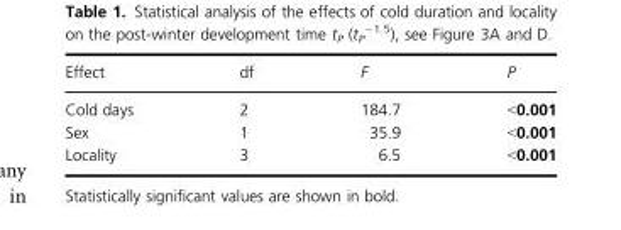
<table><thead><tr><td>Effect</td><td>df</td><td>F</td><td>P</td></tr></thead><tbody><tr><td>Cold days</td><td>2</td><td>184.7</td><td>&lt;0.001</td></tr><tr><td>Sex</td><td>1</td><td>35.9</td><td>&lt;0.001</td></tr><tr><td>Locality</td><td>3</td><td>6.5</td><td>&lt;0.001</td></tr></tbody></table>